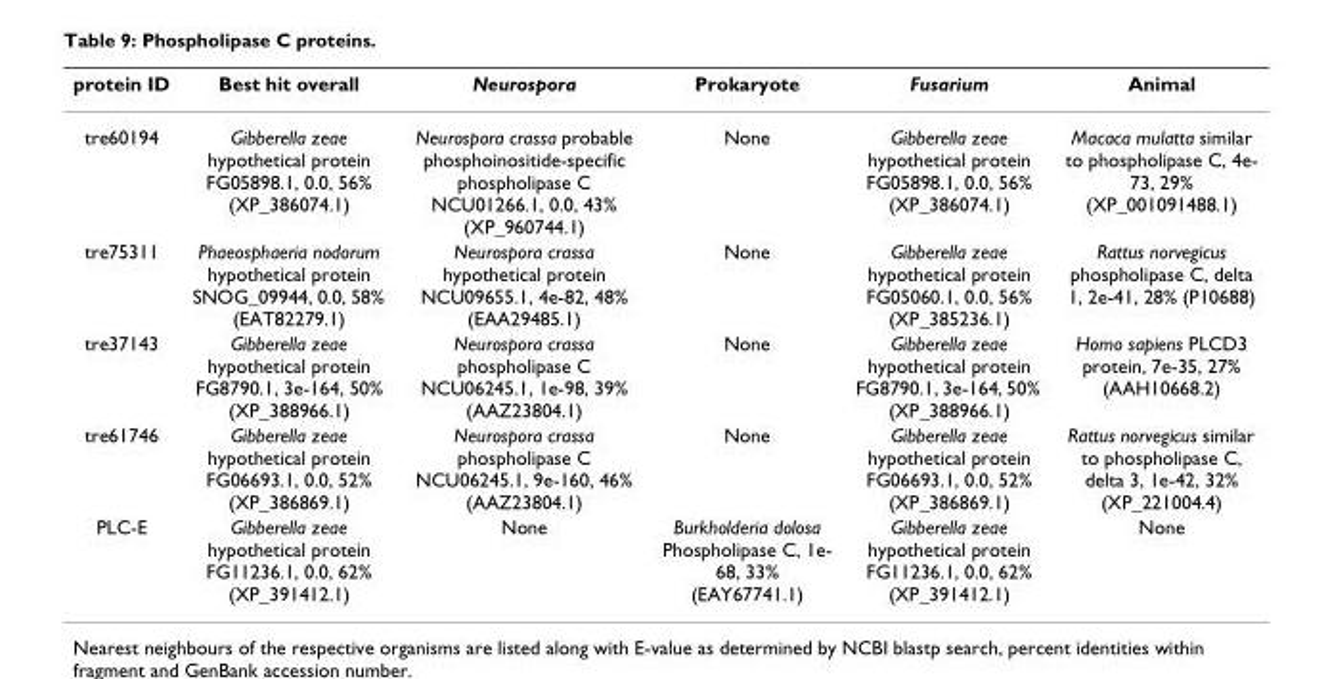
<table><thead><tr><td>protein ID</td><td>Best hit overall</td><td>Neurospora</td><td>Prokaryote</td><td>Fusarium</td><td>Animal</td></tr></thead><tbody><tr><td>tre60194</td><td>Gibberella zeae hypothetical protein FG05898.1, 0.0, 56% (XP_386074.1)</td><td>Neurospora crassa probable phosphoinositide-specific phospholipase C NCU01266.1, 0.0, 43% (XP_960744.1)</td><td>None</td><td>Gibberella zeae hypothetical protein FG05898.1, 0.0, 56% (XP_386074.1)</td><td>Macaca mulatta similar to phospholipase C, 4e- 73, 29% (XP_001091488.1)</td></tr><tr><td>tre75311</td><td>Phaeosphaeria nodorum hypothetical protein SNOG_09944, 0.0, 58% (EAT82279.1)</td><td>Neurospora crassa hypothetical protein NCU09655.1, 4e-82, 48% (EAA29485.1)</td><td>None</td><td>Gibberella zeae hypothetical protein FG05060.1, 0.0, 56% (XP_385236.1)</td><td>Rattus norvegicus phospholipase C, delta 1, 2e-41, 28% (P10688)</td></tr><tr><td>tre37143</td><td>Gibberella zeae hypothetical protein FG8790.1, 3e-164, 50% (XP_388966.1)</td><td>Neurospora crassa phospholipase C NCU06245.1, 1e-98, 39% (AAZ23804.1)</td><td>None</td><td>Gibberella zeae hypothetical protein FG8790.1, 3e-164, 50% (XP_388966.1)</td><td>Homo sapiens PLCD3 protein, 7e-35, 27% (AAH10668.2)</td></tr><tr><td>tre61746</td><td>Gibberella zeae hypothetical protein FG06693.1, 0.0, 52% (XP_386869.1)</td><td>Neurospora crassa phospholipase C NCU06245.1, 9e-160, 46% (AAZ23804.1)</td><td>None</td><td>Gibberella zeae hypothetical protein FG06693.1, 0.0, 52% (XP_386869.1)</td><td>Rattus norvegicus similar to phospholipase C, delta 3, 1e-42, 32% (XP_221004.4)</td></tr><tr><td>PLC-E</td><td>Gibberella zeae hypothetical protein FG11236.1, 0.0, 62% (XP_391412.1)</td><td>None</td><td>Burkholderia dolosa Phospholipase C, 1e- 68, 33% (EAY67741.1)</td><td>Gibberella zeae hypothetical protein FG11236.1, 0.0, 62% (XP_391412.1)</td><td>None</td></tr></tbody></table>